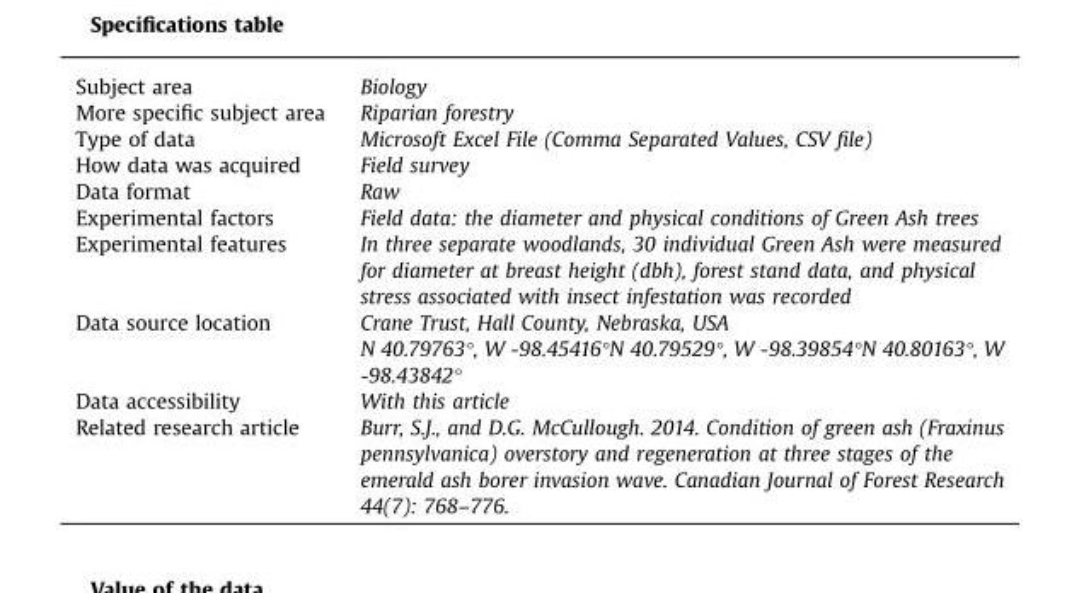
<table><tbody><tr><td>Subject area</td><td>Biology</td></tr><tr><td>More specific subject area</td><td>Riparian forestry</td></tr><tr><td>Type of data</td><td>Microsoft Excel File (Comma Separated Values, CSV file)</td></tr><tr><td>How data was acquired</td><td>Field survey</td></tr><tr><td>Data format</td><td>Raw</td></tr><tr><td>Experimental factors</td><td>Field data: the diameter and physical conditions of Green Ash trees</td></tr><tr><td>Experimental features</td><td>In three separate woodlands, 30 individual Green Ash were measured for diameter at breast height (dbh), forest stand data, and physical stress associated with insect infestation was recorded</td></tr><tr><td rowspan="2">Data source location</td><td>Crane Trust, Hall County, Nebraska, USA</td></tr><tr><td>N 40.79763°, W -98.45416°N 40.79529°, W -98.39854°N 40.80163°, W -98.43842°</td></tr><tr><td>Data accessibility</td><td>With this article</td></tr><tr><td>Related research article</td><td>Burr, S.J., and D.G. McCullough. 2014. Condition of green ash (Fraxinus pennsylvanica) overstory and regeneration at three stages of the emerald ash borer invasion wave. Canadian Journal of Forest Research 44(7): 768–776.</td></tr></tbody></table>